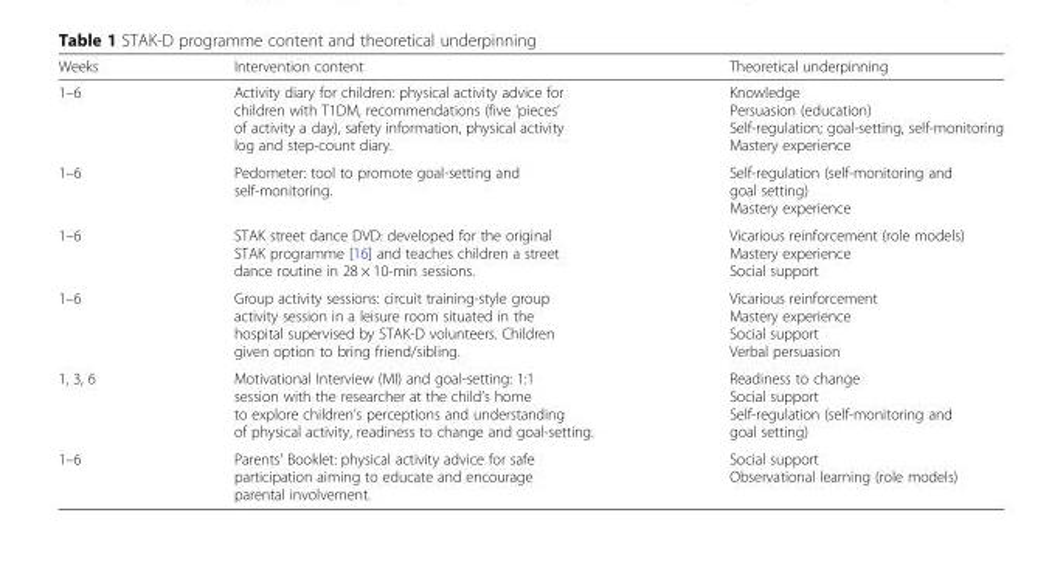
<table><thead><tr><td>Weeks</td><td>Intervention content</td><td>Theoretical underpinning</td></tr></thead><tbody><tr><td>1–6</td><td>Activity diary for children: physical activity advice for children with T1DM, recommendations (five ‘pieces’ of activity a day), safety information, physical activity log and step-count diary.</td><td>Knowledge Persuasion (education) Self-regulation; goal-setting, self-monitoring Mastery experience</td></tr><tr><td>1–6</td><td>Pedometer: tool to promote goal-setting and self-monitoring.</td><td>Self-regulation (self-monitoring and goal setting) Mastery experience</td></tr><tr><td>1–6</td><td>STAK street dance DVD: developed for the original STAK programme [16] and teaches children a street dance routine in 28 × 10-min sessions.</td><td>Vicarious reinforcement (role models) Mastery experience Social support</td></tr><tr><td>1–6</td><td>Group activity sessions: circuit training-style group activity session in a leisure room situated in the hospital supervised by STAK-D volunteers. Children given option to bring friend/sibling.</td><td>Vicarious reinforcement Mastery experience Social support Verbal persuasion</td></tr><tr><td>1, 3, 6</td><td>Motivational Interview (MI) and goal-setting: 1:1 session with the researcher at the child’s home to explore children’s perceptions and understanding of physical activity, readiness to change and goal-setting.</td><td>Readiness to change Social support Self-regulation (self-monitoring and goal setting)</td></tr><tr><td>1–6</td><td>Parents&#x27; Booklet: physical activity advice for safe participation aiming to educate and encourage parental involvement.</td><td>Social support Observational learning (role models)</td></tr></tbody></table>